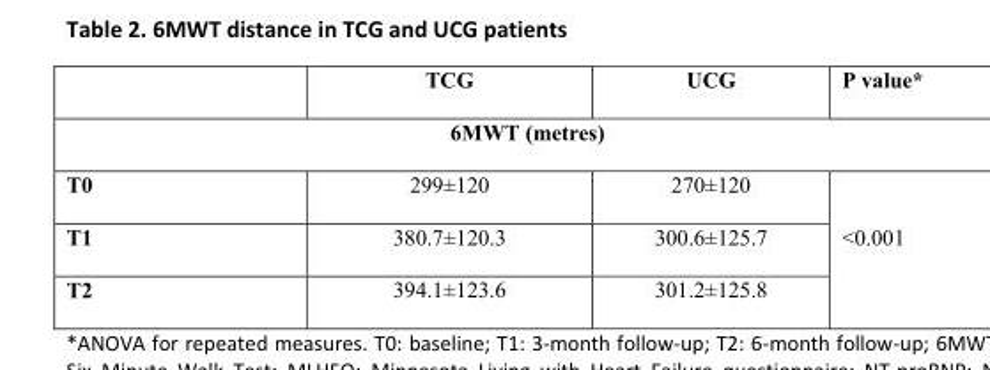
<table><thead><tr><td></td><td>TCG</td><td>UCG</td><td>P value*</td></tr></thead><tbody><tr><td colspan="4">6MWT (metres)</td></tr><tr><td>T0</td><td>299±120</td><td>270±120</td><td rowspan="3">&lt;0.001</td></tr><tr><td>T1</td><td>380.7±120.3</td><td>300.6±125.7</td></tr><tr><td>T2</td><td>394.1±123.6</td><td>301.2±125.8</td></tr></tbody></table>